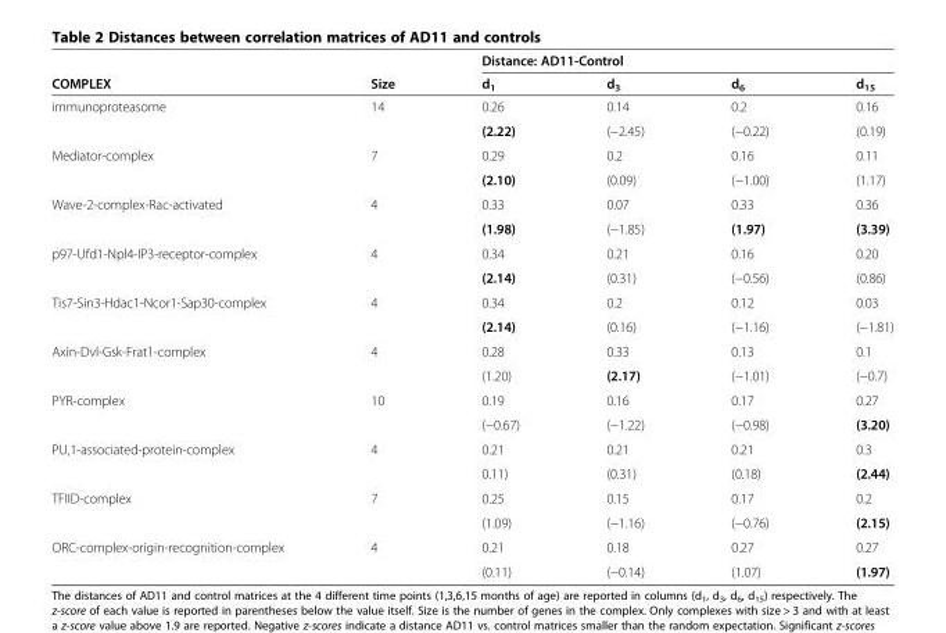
<table><thead><tr><td rowspan="2">COMPLEX</td><td rowspan="2">Size</td><td colspan="4">Distance: AD11-Control</td></tr><tr><td>d<sub>1</sub></td><td>d<sub>3</sub></td><td>d<sub>6</sub></td><td>d<sub>15</sub></td></tr></thead><tbody><tr><td rowspan="2">immunoproteasome</td><td rowspan="2">14</td><td>0.26</td><td>0.14</td><td>0.2</td><td>0.16</td></tr><tr><td>(2.22)</td><td>(−2.45)</td><td>(−0.22)</td><td>(0.19)</td></tr><tr><td rowspan="2">Mediator-complex</td><td rowspan="2">7</td><td>0.29</td><td>0.2</td><td>0.16</td><td>0.11</td></tr><tr><td>(2.10)</td><td>(0.09)</td><td>(−1.00)</td><td>(1.17)</td></tr><tr><td rowspan="2">Wave-2-complex-Rac-activated</td><td rowspan="2">4</td><td>0.33</td><td>0.07</td><td>0.33</td><td>0.36</td></tr><tr><td>(1.98)</td><td>(−1.85)</td><td>(1.97)</td><td>(3.39)</td></tr><tr><td rowspan="2">p97-Ufd1-Npl4-IP3-receptor-complex</td><td rowspan="2">4</td><td>0.34</td><td>0.21</td><td>0.16</td><td>0.20</td></tr><tr><td>(2.14)</td><td>(0.31)</td><td>(−0.56)</td><td>(0.86)</td></tr><tr><td rowspan="2">Tis7-Sin3-Hdac1-Ncor1-Sap30-complex</td><td rowspan="2">4</td><td>0.34</td><td>0.2</td><td>0.12</td><td>0.03</td></tr><tr><td>(2.14)</td><td>(0.16)</td><td>(−1.16)</td><td>(−1.81)</td></tr><tr><td rowspan="2">Axin-Dvl-Gsk-Frat1-complex</td><td rowspan="2">4</td><td>0.28</td><td>0.33</td><td>0.13</td><td>0.1</td></tr><tr><td>(1.20)</td><td>(2.17)</td><td>(−1.01)</td><td>(−0.7)</td></tr><tr><td rowspan="2">PYR-complex</td><td rowspan="2">10</td><td>0.19</td><td>0.16</td><td>0.17</td><td>0.27</td></tr><tr><td>(−0.67)</td><td>(−1.22)</td><td>(−0.98)</td><td>(3.20)</td></tr><tr><td rowspan="2">PU,1-associated-protein-complex</td><td rowspan="2">4</td><td>0.21</td><td>0.21</td><td>0.21</td><td>0.3</td></tr><tr><td>0.11)</td><td>(0.31)</td><td>(0.18)</td><td>(2.44)</td></tr><tr><td rowspan="2">TFIID-complex</td><td rowspan="2">7</td><td>0.25</td><td>0.15</td><td>0.17</td><td>0.2</td></tr><tr><td>(1.09)</td><td>(−1.16)</td><td>(−0.76)</td><td>(2.15)</td></tr><tr><td rowspan="2">ORC-complex-origin-recognition-complex</td><td rowspan="2">4</td><td>0.21</td><td>0.18</td><td>0.27</td><td>0.27</td></tr><tr><td>(0.11)</td><td>(−0.14)</td><td>(1.07)</td><td>(1.97)</td></tr></tbody></table>